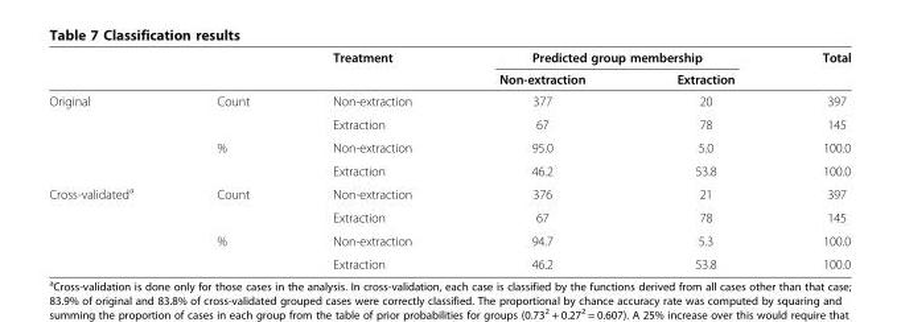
<table><thead><tr><td rowspan="2"></td><td rowspan="2"></td><td rowspan="2">Treatment</td><td colspan="2">Predicted group membership</td><td rowspan="2">Total</td></tr><tr><td>Non-extraction</td><td>Extraction</td></tr></thead><tbody><tr><td rowspan="4">Original</td><td rowspan="2">Count</td><td>Non-extraction</td><td>377</td><td>20</td><td>397</td></tr><tr><td>Extraction</td><td>67</td><td>78</td><td>145</td></tr><tr><td rowspan="2">%</td><td>Non-extraction</td><td>95.0</td><td>5.0</td><td>100.0</td></tr><tr><td>Extraction</td><td>46.2</td><td>53.8</td><td>100.0</td></tr><tr><td rowspan="4">Cross-validated<sup>a</sup></td><td rowspan="2">Count</td><td>Non-extraction</td><td>376</td><td>21</td><td>397</td></tr><tr><td>Extraction</td><td>67</td><td>78</td><td>145</td></tr><tr><td rowspan="2">%</td><td>Non-extraction</td><td>94.7</td><td>5.3</td><td>100.0</td></tr><tr><td>Extraction</td><td>46.2</td><td>53.8</td><td>100.0</td></tr></tbody></table>